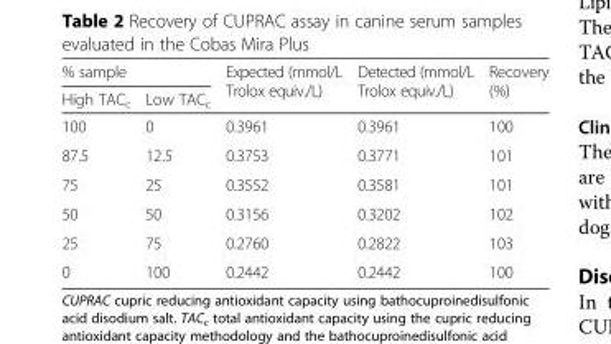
<table><thead><tr><td colspan="2">% sample</td><td rowspan="2">Expected (mmol/L Trolox equiv./L)</td><td rowspan="2">Detected (mmol/L Trolox equiv./L)</td><td rowspan="2">Recovery (%)</td></tr><tr><td>High TAC<sub>c</sub></td><td>Low TAC<sub>c</sub></td></tr></thead><tbody><tr><td>100</td><td>0</td><td>0.3961</td><td>0.3961</td><td>100</td></tr><tr><td>87.5</td><td>12.5</td><td>0.3753</td><td>0.3771</td><td>101</td></tr><tr><td>75</td><td>25</td><td>0.3552</td><td>0.3581</td><td>101</td></tr><tr><td>50</td><td>50</td><td>0.3156</td><td>0.3202</td><td>102</td></tr><tr><td>25</td><td>75</td><td>0.2760</td><td>0.2822</td><td>103</td></tr><tr><td>0</td><td>100</td><td>0.2442</td><td>0.2442</td><td>100</td></tr></tbody></table>